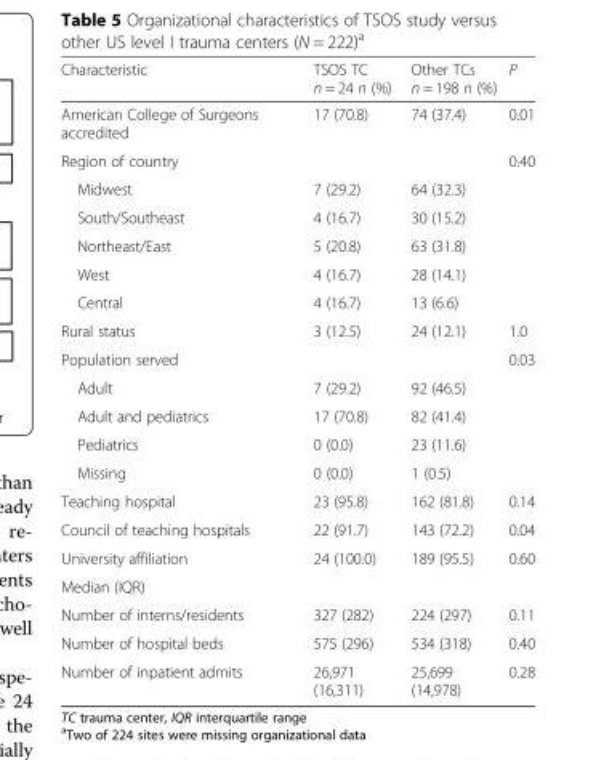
<table><thead><tr><td>Characteristic</td><td>TSOS TC n = 24 n (%)</td><td>Other TCs n = 198 n (%)</td><td>P</td></tr></thead><tbody><tr><td>American College of Surgeons accredited</td><td>17 (70.8)</td><td>74 (37.4)</td><td>0.01</td></tr><tr><td>Region of country</td><td colspan="2"></td><td>0.40</td></tr><tr><td>Midwest</td><td>7 (29.2)</td><td>64 (32.3)</td><td></td></tr><tr><td>South/Southeast</td><td>4 (16.7)</td><td>30 (15.2)</td><td></td></tr><tr><td>Northeast/East</td><td>5 (20.8)</td><td>63 (31.8)</td><td></td></tr><tr><td>West</td><td>4 (16.7)</td><td>28 (14.1)</td><td></td></tr><tr><td>Central</td><td>4 (16.7)</td><td>13 (6.6)</td><td></td></tr><tr><td>Rural status</td><td>3 (12.5)</td><td>24 (12.1)</td><td>1.0</td></tr><tr><td>Population served</td><td colspan="2"></td><td>0.03</td></tr><tr><td>Adult</td><td>7 (29.2)</td><td>92 (46.5)</td><td></td></tr><tr><td>Adult and pediatrics</td><td>17 (70.8)</td><td>82 (41.4)</td><td></td></tr><tr><td>Pediatrics</td><td>0 (0.0)</td><td>23 (11.6)</td><td></td></tr><tr><td>Missing</td><td>0 (0.0)</td><td>1 (0.5)</td><td></td></tr><tr><td>Teaching hospital</td><td>23 (95.8)</td><td>162 (81.8)</td><td>0.14</td></tr><tr><td>Council of teaching hospitals</td><td>22 (91.7)</td><td>143 (72.2)</td><td>0.04</td></tr><tr><td>University affiliation</td><td>24 (100.0)</td><td>189 (95.5)</td><td>0.60</td></tr><tr><td colspan="4">Median (IQR)</td></tr><tr><td>Number of interns/residents</td><td>327 (282)</td><td>224 (297)</td><td>0.11</td></tr><tr><td>Number of hospital beds</td><td>575 (296)</td><td>534 (318)</td><td>0.40</td></tr><tr><td>Number of inpatient admits</td><td>26,971 (16,311)</td><td>25,699 (14,978)</td><td>0.28</td></tr></tbody></table>